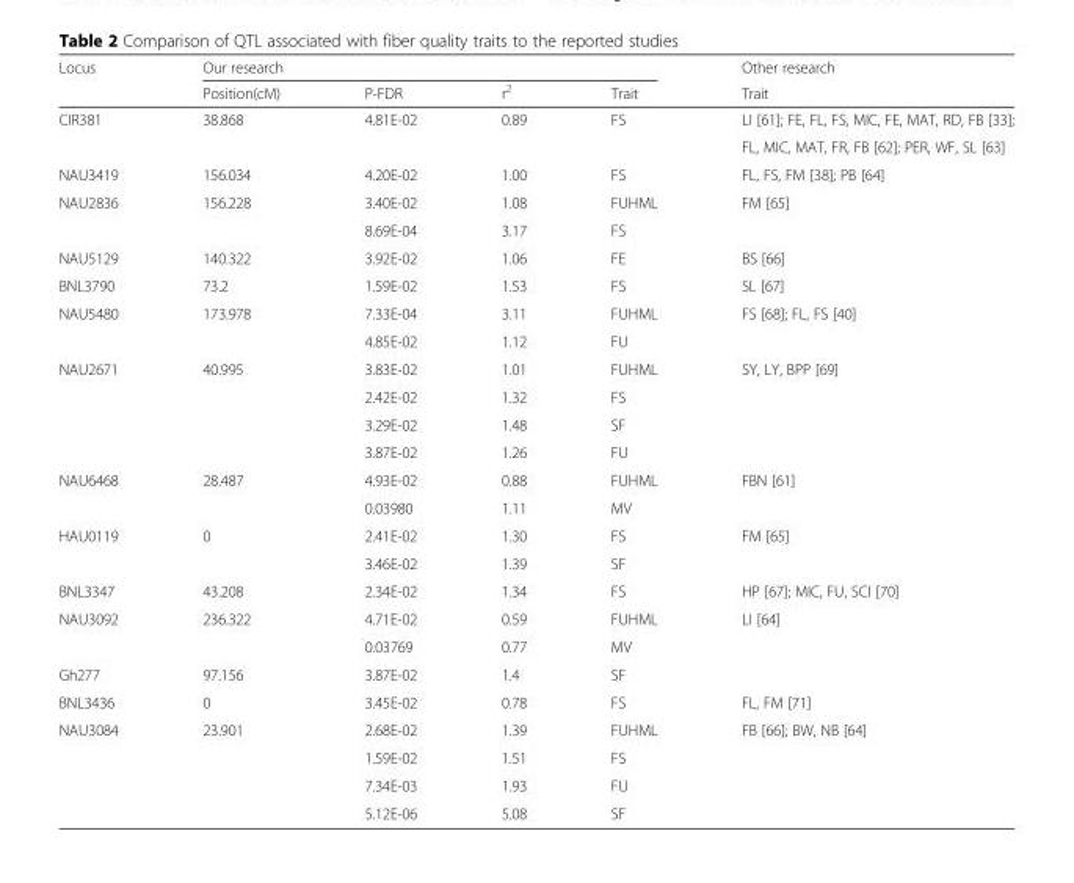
<table><thead><tr><td rowspan="2">Locus</td><td colspan="4">Our research</td><td rowspan="2">Other research Trait</td></tr><tr><td>Position(cM)</td><td>P-FDR</td><td>r<sup>2</sup></td><td>Trait</td></tr></thead><tbody><tr><td rowspan="2">CIR381</td><td>38.868</td><td>4.81E-02</td><td>0.89</td><td>FS</td><td>LI [61]; FE, FL, FS, MIC, FE, MAT, RD, FB [33];</td></tr><tr><td></td><td></td><td></td><td></td><td>FL, MIC, MAT, FR, FB [62]; PER, WF, SL [63]</td></tr><tr><td>NAU3419</td><td>156.034</td><td>4.20E-02</td><td>1.00</td><td>FS</td><td>FL, FS, FM [38]; PB [64]</td></tr><tr><td rowspan="2">NAU2836</td><td>156.228</td><td>3.40E-02</td><td>1.08</td><td>FUHML</td><td>FM [65]</td></tr><tr><td></td><td>8.69E-04</td><td>3.17</td><td>FS</td><td></td></tr><tr><td>NAU5129</td><td>140.322</td><td>3.92E-02</td><td>1.06</td><td>FE</td><td>BS [66]</td></tr><tr><td>BNL3790</td><td>73.2</td><td>1.59E-02</td><td>1.53</td><td>FS</td><td>SL [67]</td></tr><tr><td rowspan="2">NAU5480</td><td>173.978</td><td>7.33E-04</td><td>3.11</td><td>FUHML</td><td>FS [68]; FL, FS [40]</td></tr><tr><td></td><td>4.85E-02</td><td>1.12</td><td>FU</td><td></td></tr><tr><td rowspan="4">NAU2671</td><td>40.995</td><td>3.83E-02</td><td>1.01</td><td>FUHML</td><td>SY, LY, BPP [69]</td></tr><tr><td></td><td>2.42E-02</td><td>1.32</td><td>FS</td><td></td></tr><tr><td></td><td>3.29E-02</td><td>1.48</td><td>SF</td><td></td></tr><tr><td></td><td>3.87E-02</td><td>1.26</td><td>FU</td><td></td></tr><tr><td rowspan="2">NAU6468</td><td>28.487</td><td>4.93E-02</td><td>0.88</td><td>FUHML</td><td>FBN [61]</td></tr><tr><td></td><td>0.03980</td><td>1.11</td><td>MV</td><td></td></tr><tr><td rowspan="2">HAU0119</td><td>0</td><td>2.41E-02</td><td>1.30</td><td>FS</td><td>FM [65]</td></tr><tr><td></td><td>3.46E-02</td><td>1.39</td><td>SF</td><td></td></tr><tr><td>BNL3347</td><td>43.208</td><td>2.34E-02</td><td>1.34</td><td>FS</td><td>HP [67]; MIC, FU, SCI [70]</td></tr><tr><td rowspan="2">NAU3092</td><td>236.322</td><td>4.71E-02</td><td>0.59</td><td>FUHML</td><td>LI [64]</td></tr><tr><td></td><td>0.03769</td><td>0.77</td><td>MV</td><td></td></tr><tr><td>Gh277</td><td>97.156</td><td>3.87E-02</td><td>1.4</td><td>SF</td><td></td></tr><tr><td>BNL3436</td><td>0</td><td>3.45E-02</td><td>0.78</td><td>FS</td><td>FL, FM [71]</td></tr><tr><td rowspan="4">NAU3084</td><td>23.901</td><td>2.68E-02</td><td>1.39</td><td>FUHML</td><td>FB [66]; BW, NB [64]</td></tr><tr><td></td><td>1.59E-02</td><td>1.51</td><td>FS</td><td></td></tr><tr><td></td><td>7.34E-03</td><td>1.93</td><td>FU</td><td></td></tr><tr><td></td><td>5.12E-06</td><td>5.08</td><td>SF</td><td></td></tr></tbody></table>